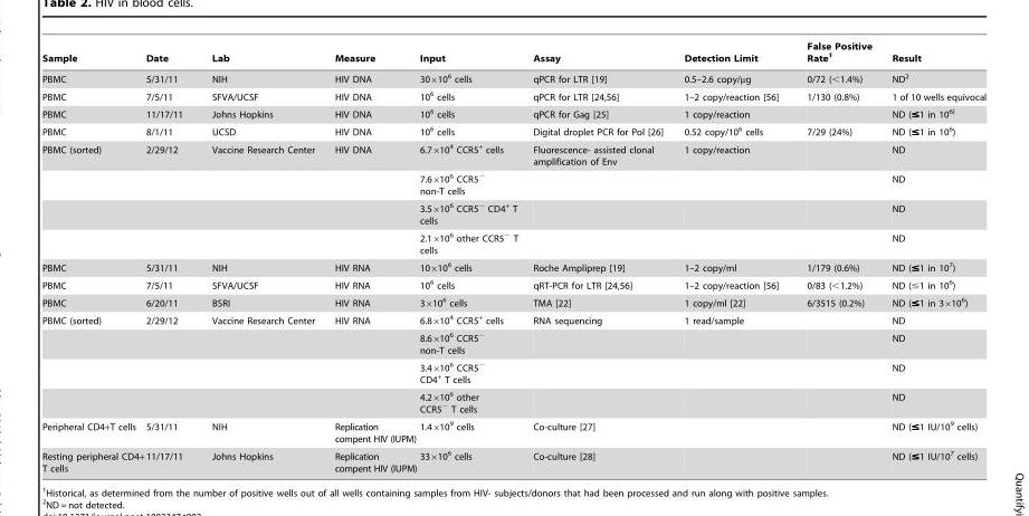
<table><thead><tr><td>Sample</td><td>Date</td><td>Lab</td><td>Measure</td><td>Input</td><td>Assay</td><td>Detection Limit</td><td>False Positive Rate<sup>1</sup></td><td>Result</td></tr></thead><tbody><tr><td>PBMC</td><td>5/31/11</td><td>NIH</td><td>HIV DNA</td><td>30×10<sup>6</sup> cells</td><td>qPCR for LTR [19]</td><td>0.5–2.6 copy/µg</td><td>0/72 (&lt;1.4%)</td><td>ND<sup>2</sup></td></tr><tr><td>PBMC</td><td>7/5/11</td><td>SFVA/UCSF</td><td>HIV DNA</td><td>10<sup>6</sup> cells</td><td>qPCR for LTR [24,56]</td><td>1–2 copy/reaction [56]</td><td>1/130 (0.8%)</td><td>1 of 10 wells equivocal</td></tr><tr><td>PBMC</td><td>11/17/11</td><td>Johns Hopkins</td><td>HIV DNA</td><td>10<sup>6</sup> cells</td><td>qPCR for Gag [25]</td><td>1 copy/reaction</td><td></td><td>ND (≤1 in 10<sup>6)</sup></td></tr><tr><td>PBMC</td><td>8/1/11</td><td>UCSD</td><td>HIV DNA</td><td>10<sup>6</sup> cells</td><td>Digital droplet PCR for Pol [26]</td><td>0.52 copy/10<sup>6</sup> cells</td><td>7/29 (24%)</td><td>ND (≤1 in 10<sup>6</sup>)</td></tr><tr><td rowspan="4">PBMC (sorted)</td><td>2/29/12</td><td>Vaccine Research Center</td><td>HIV DNA</td><td>6.7×10<sup>4</sup> CCR5<sup>+</sup> cells</td><td>Fluorescence- assisted clonal amplification of Env</td><td>1 copy/reaction</td><td></td><td>ND</td></tr><tr><td></td><td></td><td></td><td>7.6×10<sup>6</sup> CCR5<sup>−</sup> non-T cells</td><td></td><td></td><td></td><td>ND</td></tr><tr><td></td><td></td><td></td><td>3.5×10<sup>6</sup> CCR5<sup>−</sup> CD4<sup>+</sup> T cells</td><td></td><td></td><td></td><td>ND</td></tr><tr><td></td><td></td><td></td><td>2.1×10<sup>6</sup> other CCR5<sup>−</sup> T cells</td><td></td><td></td><td></td><td>ND</td></tr><tr><td>PBMC</td><td>5/31/11</td><td>NIH</td><td>HIV RNA</td><td>10×10<sup>6</sup> cells</td><td>Roche Ampliprep [19]</td><td>1–2 copy/ml</td><td>1/179 (0.6%)</td><td>ND (≤1 in 10<sup>7</sup>)</td></tr><tr><td>PBMC</td><td>7/5/11</td><td>SFVA/UCSF</td><td>HIV RNA</td><td>10<sup>6</sup> cells</td><td>qRT-PCR for LTR [24,56]</td><td>1–2 copy/reaction [56]</td><td>0/83 (&lt;1.2%)</td><td>ND (≤1 in 10<sup>6</sup>)</td></tr><tr><td>PBMC</td><td>6/20/11</td><td>BSRI</td><td>HIV RNA</td><td>3×10<sup>6</sup> cells</td><td>TMA [22]</td><td>1 copy/ml [22]</td><td>6/3515 (0.2%)</td><td>ND (≤1 in 3×10<sup>6</sup>)</td></tr><tr><td rowspan="4">PBMC (sorted)</td><td>2/29/12</td><td>Vaccine Research Center</td><td>HIV RNA</td><td>6.8×10<sup>4</sup> CCR5<sup>+</sup> cells</td><td>RNA sequencing</td><td>1 read/sample</td><td></td><td>ND</td></tr><tr><td></td><td></td><td></td><td>8.6×10<sup>6</sup> CCR5<sup>−</sup> non-T cells</td><td></td><td></td><td></td><td>ND</td></tr><tr><td></td><td></td><td></td><td>3.4×10<sup>6</sup> CCR5<sup>−</sup> CD4<sup>+</sup> T cells</td><td></td><td></td><td></td><td>ND</td></tr><tr><td></td><td></td><td></td><td>4.2×10<sup>6</sup> other CCR5<sup>−</sup> T cells</td><td></td><td></td><td></td><td>ND</td></tr><tr><td>Peripheral CD4+T cells</td><td>5/31/11</td><td>NIH</td><td>Replication compent HIV (IUPM)</td><td>1.4×10<sup>9</sup> cells</td><td>Co-culture [27]</td><td></td><td></td><td>ND (≤1 IU/10<sup>9</sup> cells)</td></tr><tr><td>Resting peripheral CD4+ T cells</td><td>11/17/11</td><td>Johns Hopkins</td><td>Replication compent HIV (IUPM)</td><td>33×10<sup>6</sup> cells</td><td>Co-culture [28]</td><td></td><td></td><td>ND (≤1 IU/10<sup>7</sup> cells)</td></tr></tbody></table>